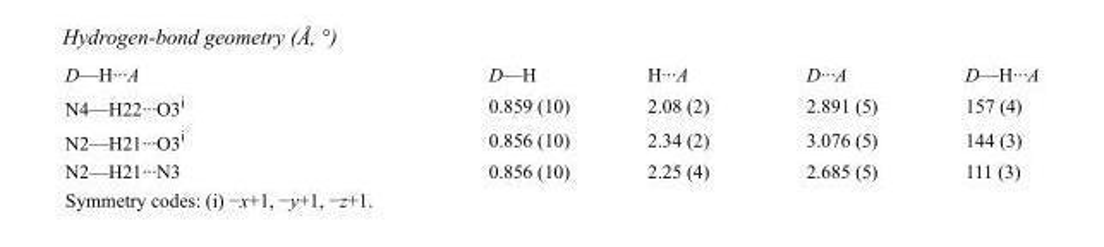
<table><tbody><tr><td>D—H···A</td><td>D—H</td><td>H···A</td><td>D···A</td><td>D—H···A</td></tr><tr><td>N4—H22···O3<sup>i</sup></td><td>0.859 (10)</td><td>2.08 (2)</td><td>2.891 (5)</td><td>157 (4)</td></tr><tr><td>N2—H21···O3<sup>i</sup></td><td>0.856 (10)</td><td>2.34 (2)</td><td>3.076 (5)</td><td>144 (3)</td></tr><tr><td>N2—H21···N3</td><td>0.856 (10)</td><td>2.25 (4)</td><td>2.685 (5)</td><td>111 (3)</td></tr></tbody></table>